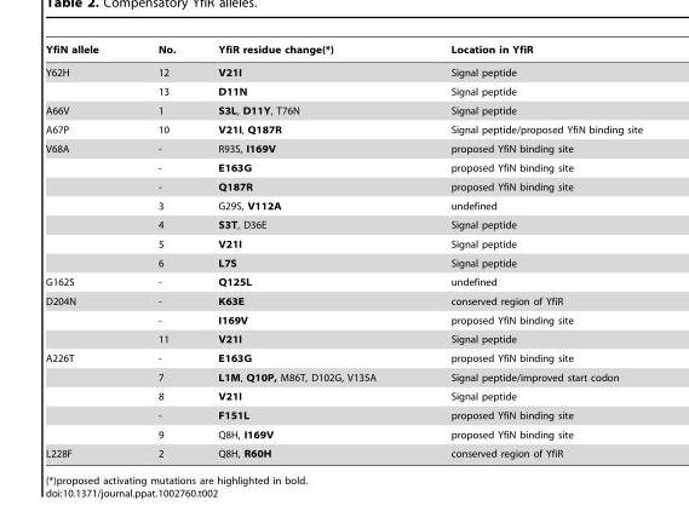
<table><thead><tr><td>YfiN allele</td><td>No.</td><td>YfiR residue change(*)</td><td>Location in YfiR</td></tr></thead><tbody><tr><td rowspan="2">Y62H</td><td>12</td><td>V21I</td><td>Signal peptide</td></tr><tr><td>13</td><td>D11N</td><td>Signal peptide</td></tr><tr><td>A66V</td><td>1</td><td>S3L, D11Y, T76N</td><td>Signal peptide</td></tr><tr><td>A67P</td><td>10</td><td>V21I, Q187R</td><td>Signal peptide/proposed YfiN binding site</td></tr><tr><td rowspan="7">V68A</td><td>-</td><td>R93S, I169V</td><td>proposed YfiN binding site</td></tr><tr><td>-</td><td>E163G</td><td>proposed YfiN binding site</td></tr><tr><td>-</td><td>Q187R</td><td>proposed YfiN binding site</td></tr><tr><td>3</td><td>G29S, V112A</td><td>undefined</td></tr><tr><td>4</td><td>S3T, D36E</td><td>Signal peptide</td></tr><tr><td>5</td><td>V21I</td><td>Signal peptide</td></tr><tr><td>6</td><td>L7S</td><td>Signal peptide</td></tr><tr><td>G162S</td><td>-</td><td>Q125L</td><td>undefined</td></tr><tr><td rowspan="3">D204N</td><td>-</td><td>K63E</td><td>conserved region of YfiR</td></tr><tr><td>-</td><td>I169V</td><td>proposed YfiN binding site</td></tr><tr><td>11</td><td>V21I</td><td>Signal peptide</td></tr><tr><td rowspan="5">A226T</td><td>-</td><td>E163G</td><td>proposed YfiN binding site</td></tr><tr><td>7</td><td>L1M, Q10P, M86T, D102G, V135A</td><td>Signal peptide/improved start codon</td></tr><tr><td>8</td><td>V21I</td><td>Signal peptide</td></tr><tr><td>-</td><td>F151L</td><td>proposed YfiN binding site</td></tr><tr><td>9</td><td>Q8H, I169V</td><td>proposed YfiN binding site</td></tr><tr><td>L228F</td><td>2</td><td>Q8H, R60H</td><td>conserved region of YfiR</td></tr></tbody></table>